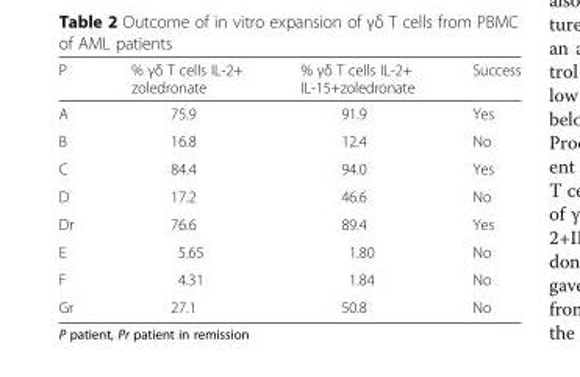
<table><thead><tr><td>P</td><td>% γδ T cells IL-2+ zoledronate</td><td>% γδ T cells IL-2+ IL-15+zoledronate</td><td>Success</td></tr></thead><tbody><tr><td>A</td><td>75.9</td><td>91.9</td><td>Yes</td></tr><tr><td>B</td><td>16.8</td><td>12.4</td><td>No</td></tr><tr><td>C</td><td>84.4</td><td>94.0</td><td>Yes</td></tr><tr><td>D</td><td>17.2</td><td>46.6</td><td>No</td></tr><tr><td>Dr</td><td>76.6</td><td>89.4</td><td>Yes</td></tr><tr><td>E</td><td>5.65</td><td>1.80</td><td>No</td></tr><tr><td>F</td><td>4.31</td><td>1.84</td><td>No</td></tr><tr><td>Gr</td><td>27.1</td><td>50.8</td><td>No</td></tr></tbody></table>